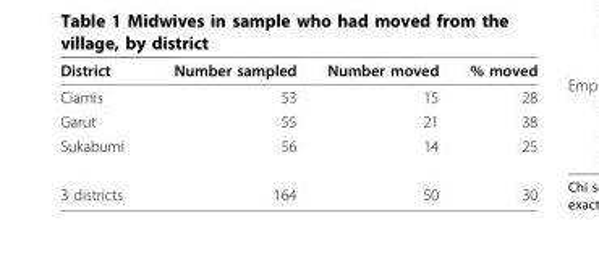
<table><thead><tr><td>District</td><td>Number sampled</td><td>Number moved</td><td>% moved</td></tr></thead><tbody><tr><td>Ciamis</td><td>53</td><td>15</td><td>28</td></tr><tr><td>Garut</td><td>55</td><td>21</td><td>38</td></tr><tr><td>Sukabumi</td><td>56</td><td>14</td><td>25</td></tr><tr><td>3 districts</td><td>164</td><td>50</td><td>30</td></tr></tbody></table>